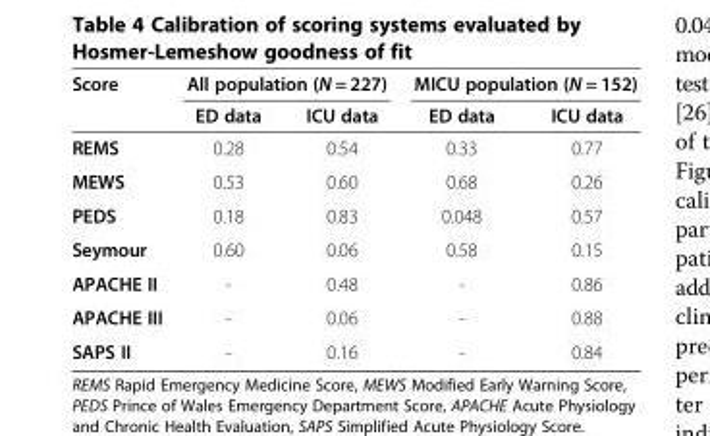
<table><thead><tr><td rowspan="2">Score</td><td colspan="2">All population (N = 227)</td><td colspan="2">MICU population (N = 152)</td></tr><tr><td>ED data</td><td>ICU data</td><td>ED data</td><td>ICU data</td></tr></thead><tbody><tr><td>REMS</td><td>0.28</td><td>0.54</td><td>0.33</td><td>0.77</td></tr><tr><td>MEWS</td><td>0.53</td><td>0.60</td><td>0.68</td><td>0.26</td></tr><tr><td>PEDS</td><td>0.18</td><td>0.83</td><td>0.048</td><td>0.57</td></tr><tr><td>Seymour</td><td>0.60</td><td>0.06</td><td>0.58</td><td>0.15</td></tr><tr><td>APACHE II</td><td>-</td><td>0.48</td><td>-</td><td>0.86</td></tr><tr><td>APACHE III</td><td>-</td><td>0.06</td><td>-</td><td>0.88</td></tr><tr><td>SAPS II</td><td>-</td><td>0.16</td><td>-</td><td>0.84</td></tr></tbody></table>